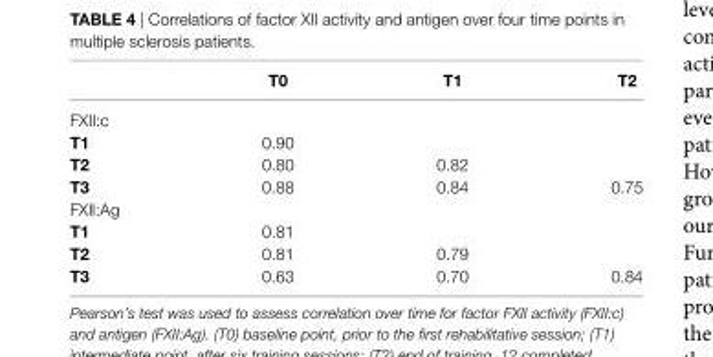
<table><thead><tr><td></td><td>T0</td><td>T1</td><td>T2</td></tr></thead><tbody><tr><td colspan="4">FXII:c</td></tr><tr><td>T1</td><td>0.90</td><td></td><td></td></tr><tr><td>T2</td><td>0.80</td><td>0.82</td><td></td></tr><tr><td>T3</td><td>0.88</td><td>0.84</td><td>0.75</td></tr><tr><td colspan="4">FXII:Ag</td></tr><tr><td>T1</td><td>0.81</td><td></td><td></td></tr><tr><td>T2</td><td>0.81</td><td>0.79</td><td></td></tr><tr><td>T3</td><td>0.63</td><td>0.70</td><td>0.84</td></tr></tbody></table>